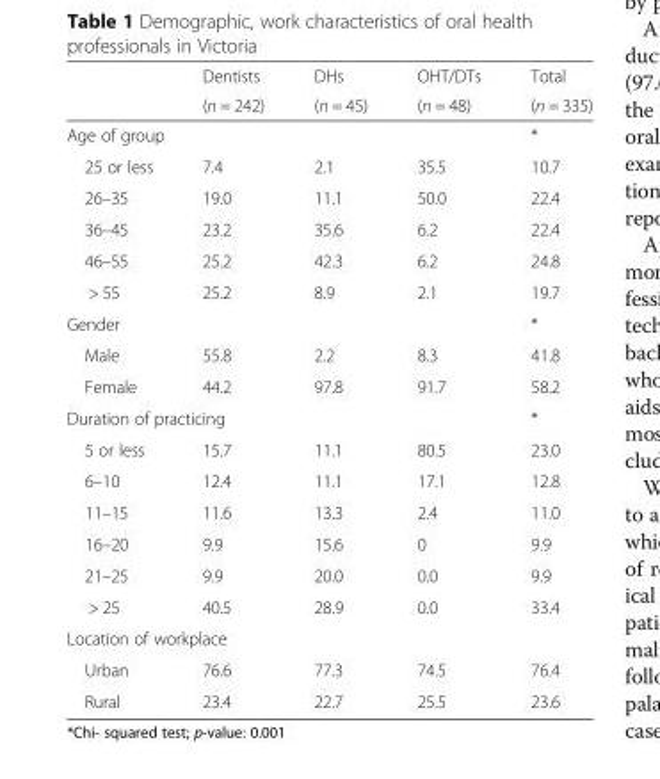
<table><thead><tr><td rowspan="2"></td><td rowspan="2">Dentists (n = 242)</td><td rowspan="2">DHs (n = 45)</td><td rowspan="2">OHT/DTs (n = 48)</td><td rowspan="2">Total (n = 335)</td></tr><tr></tr></thead><tbody><tr><td colspan="4">Age of group</td><td>*</td></tr><tr><td>25 or less</td><td>7.4</td><td>2.1</td><td>35.5</td><td>10.7</td></tr><tr><td>26–35</td><td>19.0</td><td>11.1</td><td>50.0</td><td>22.4</td></tr><tr><td>36–45</td><td>23.2</td><td>35.6</td><td>6.2</td><td>22.4</td></tr><tr><td>46–55</td><td>25.2</td><td>42.3</td><td>6.2</td><td>24.8</td></tr><tr><td>&gt; 55</td><td>25.2</td><td>8.9</td><td>2.1</td><td>19.7</td></tr><tr><td>Gender</td><td></td><td></td><td></td><td>*</td></tr><tr><td>Male</td><td>55.8</td><td>2.2</td><td>8.3</td><td>41.8</td></tr><tr><td>Female</td><td>44.2</td><td>97.8</td><td>91.7</td><td>58.2</td></tr><tr><td colspan="4">Duration of practicing</td><td>*</td></tr><tr><td>5 or less</td><td>15.7</td><td>11.1</td><td>80.5</td><td>23.0</td></tr><tr><td>6–10</td><td>12.4</td><td>11.1</td><td>17.1</td><td>12.8</td></tr><tr><td>11–15</td><td>11.6</td><td>13.3</td><td>2.4</td><td>11.0</td></tr><tr><td>16–20</td><td>9.9</td><td>15.6</td><td>0</td><td>9.9</td></tr><tr><td>21–25</td><td>9.9</td><td>20.0</td><td>0.0</td><td>9.9</td></tr><tr><td>&gt; 25</td><td>40.5</td><td>28.9</td><td>0.0</td><td>33.4</td></tr><tr><td colspan="5">Location of workplace</td></tr><tr><td>Urban</td><td>76.6</td><td>77.3</td><td>74.5</td><td>76.4</td></tr><tr><td>Rural</td><td>23.4</td><td>22.7</td><td>25.5</td><td>23.6</td></tr></tbody></table>